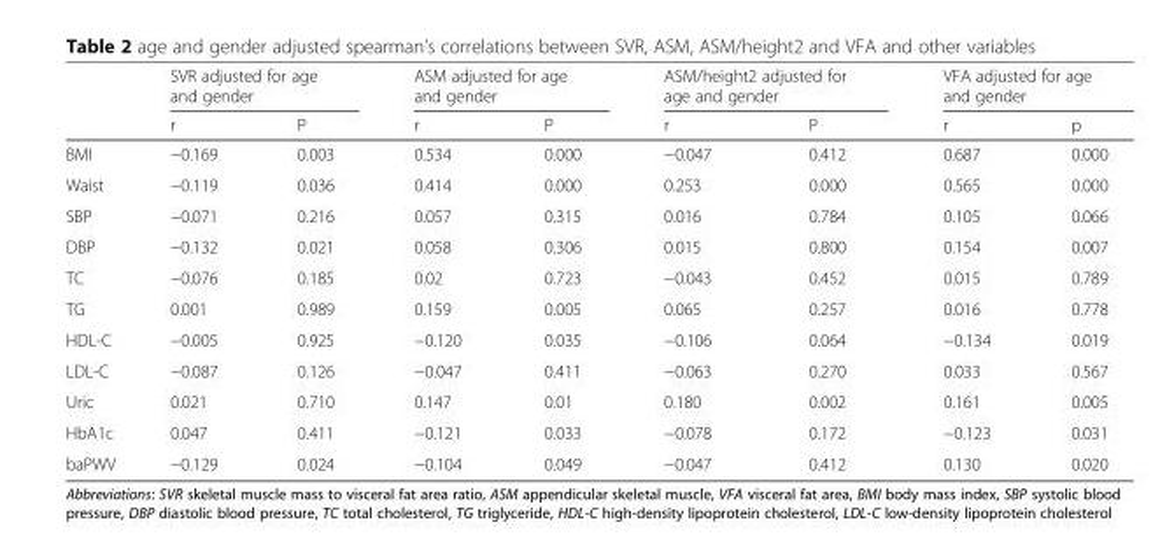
<table><thead><tr><td rowspan="2"></td><td colspan="2">SVR adjusted for age and gender</td><td colspan="2">ASM adjusted for age and gender</td><td colspan="2">ASM/height2 adjusted for age and gender</td><td colspan="2">VFA adjusted for age and gender</td></tr><tr><td>r</td><td>P</td><td>r</td><td>P</td><td>r</td><td>P</td><td>r</td><td>p</td></tr></thead><tbody><tr><td>BMI</td><td>−0.169</td><td>0.003</td><td>0.534</td><td>0.000</td><td>−0.047</td><td>0.412</td><td>0.687</td><td>0.000</td></tr><tr><td>Waist</td><td>−0.119</td><td>0.036</td><td>0.414</td><td>0.000</td><td>0.253</td><td>0.000</td><td>0.565</td><td>0.000</td></tr><tr><td>SBP</td><td>−0.071</td><td>0.216</td><td>0.057</td><td>0.315</td><td>0.016</td><td>0.784</td><td>0.105</td><td>0.066</td></tr><tr><td>DBP</td><td>−0.132</td><td>0.021</td><td>0.058</td><td>0.306</td><td>0.015</td><td>0.800</td><td>0.154</td><td>0.007</td></tr><tr><td>TC</td><td>−0.076</td><td>0.185</td><td>0.02</td><td>0.723</td><td>−0.043</td><td>0.452</td><td>0.015</td><td>0.789</td></tr><tr><td>TG</td><td>0.001</td><td>0.989</td><td>0.159</td><td>0.005</td><td>0.065</td><td>0.257</td><td>0.016</td><td>0.778</td></tr><tr><td>HDL-C</td><td>−0.005</td><td>0.925</td><td>−0.120</td><td>0.035</td><td>−0.106</td><td>0.064</td><td>−0.134</td><td>0.019</td></tr><tr><td>LDL-C</td><td>−0.087</td><td>0.126</td><td>−0.047</td><td>0.411</td><td>−0.063</td><td>0.270</td><td>0.033</td><td>0.567</td></tr><tr><td>Uric</td><td>0.021</td><td>0.710</td><td>0.147</td><td>0.01</td><td>0.180</td><td>0.002</td><td>0.161</td><td>0.005</td></tr><tr><td>HbA1c</td><td>0.047</td><td>0.411</td><td>−0.121</td><td>0.033</td><td>−0.078</td><td>0.172</td><td>−0.123</td><td>0.031</td></tr><tr><td>baPWV</td><td>−0.129</td><td>0.024</td><td>−0.104</td><td>0.049</td><td>−0.047</td><td>0.412</td><td>0.130</td><td>0.020</td></tr></tbody></table>